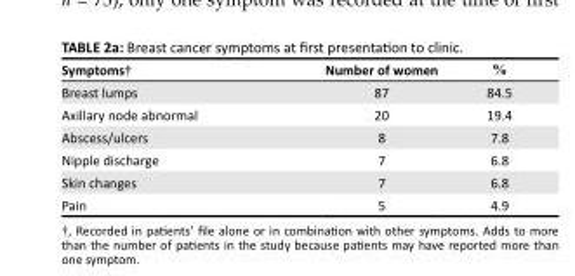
<table><thead><tr><td>Symptoms†</td><td>Number of women</td><td>%</td></tr></thead><tbody><tr><td>Breast lumps</td><td>87</td><td>84.5</td></tr><tr><td>Axillary node abnormal</td><td>20</td><td>19.4</td></tr><tr><td>Abscess/ulcers</td><td>8</td><td>7.8</td></tr><tr><td>Nipple discharge</td><td>7</td><td>6.8</td></tr><tr><td>Skin changes</td><td>7</td><td>6.8</td></tr><tr><td>Pain</td><td>5</td><td>4.9</td></tr></tbody></table>